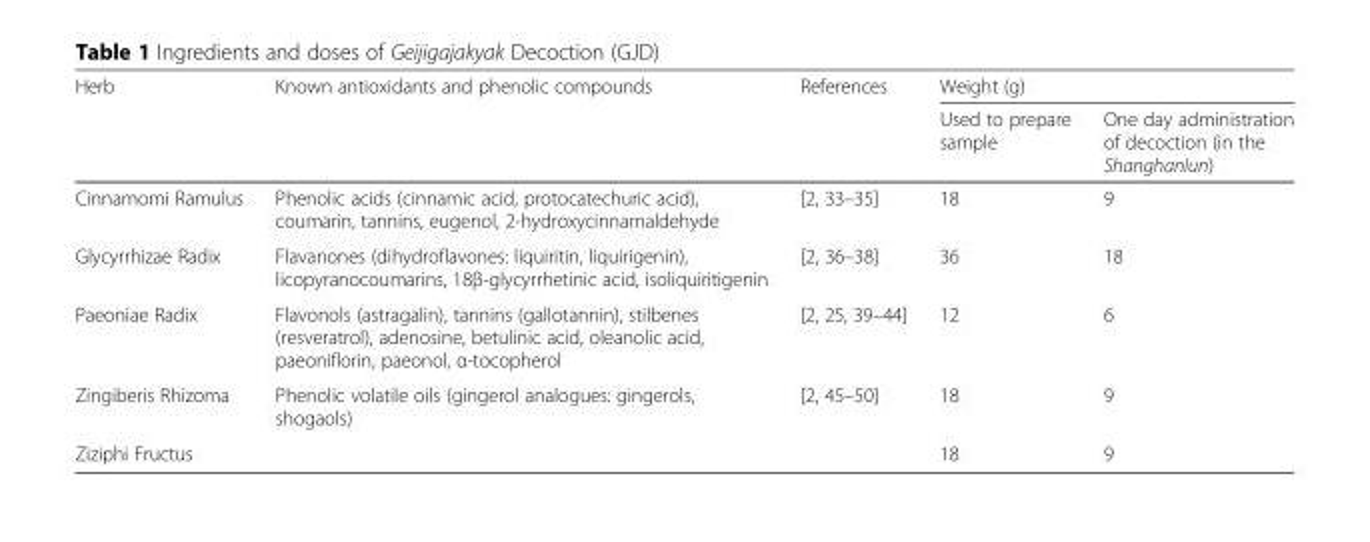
<table><thead><tr><td rowspan="2">Herb</td><td rowspan="2">Known antioxidants and phenolic compounds</td><td rowspan="2">References</td><td colspan="2">Weight (g)</td></tr><tr><td>Used to prepare sample</td><td>One day administration of decoction (in the Shanghanlun)</td></tr></thead><tbody><tr><td>Cinnamomi Ramulus</td><td>Phenolic acids (cinnamic acid, protocatechuric acid), coumarin, tannins, eugenol, 2-hydroxycinnamaldehyde</td><td>[2, 33–35]</td><td>18</td><td>9</td></tr><tr><td>Glycyrrhizae Radix</td><td>Flavanones (dihydroflavones: liquiritin, liquirigenin), licopyranocoumarins, 18β-glycyrrhetinic acid, isoliquiritigenin</td><td>[2, 36–38]</td><td>36</td><td>18</td></tr><tr><td>Paeoniae Radix</td><td>Flavonols (astragalin), tannins (gallotannin), stilbenes (resveratrol), adenosine, betulinic acid, oleanolic acid, paeoniflorin, paeonol, α-tocopherol</td><td>[2, 25, 39–44]</td><td>12</td><td>6</td></tr><tr><td>Zingiberis Rhizoma</td><td>Phenolic volatile oils (gingerol analogues: gingerols, shogaols)</td><td>[2, 45–50]</td><td>18</td><td>9</td></tr><tr><td>Ziziphi Fructus</td><td></td><td></td><td>18</td><td>9</td></tr></tbody></table>